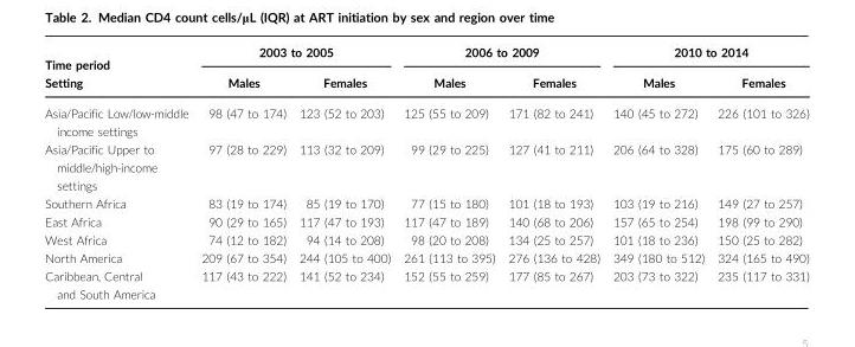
<table><thead><tr><td rowspan="2">Time period Setting</td><td colspan="2">2003 to 2005</td><td colspan="2">2006 to 2009</td><td colspan="2">2010 to 2014</td></tr><tr><td>Males</td><td>Females</td><td>Males</td><td>Females</td><td>Males</td><td>Females</td></tr></thead><tbody><tr><td>Asia/Pacific Low/low-middle income settings</td><td>98 (47 to 174)</td><td>123 (52 to 203)</td><td>125 (55 to 209)</td><td>171 (82 to 241)</td><td>140 (45 to 272)</td><td>226 (101 to 326)</td></tr><tr><td>Asia/Pacific Upper to middle/high-income settings</td><td>97 (28 to 229)</td><td>113 (32 to 209)</td><td>99 (29 to 225)</td><td>127 (41 to 211)</td><td>206 (64 to 328)</td><td>175 (60 to 289)</td></tr><tr><td>Southern Africa</td><td>83 (19 to 174)</td><td>85 (19 to 170)</td><td>77 (15 to 180)</td><td>101 (18 to 193)</td><td>103 (19 to 216)</td><td>149 (27 to 257)</td></tr><tr><td>East Africa</td><td>90 (29 to 165)</td><td>117 (47 to 193)</td><td>117 (47 to 189)</td><td>140 (68 to 206)</td><td>157 (65 to 254)</td><td>198 (99 to 290)</td></tr><tr><td>West Africa</td><td>74 (12 to 182)</td><td>94 (14 to 208)</td><td>98 (20 to 208)</td><td>134 (25 to 257)</td><td>101 (18 to 236)</td><td>150 (25 to 282)</td></tr><tr><td>North America</td><td>209 (67 to 354)</td><td>244 (105 to 400)</td><td>261 (113 to 395)</td><td>276 (136 to 428)</td><td>349 (180 to 512)</td><td>324 (165 to 490)</td></tr><tr><td>Caribbean, Central and South America</td><td>117 (43 to 222)</td><td>141 (52 to 234)</td><td>152 (55 to 259)</td><td>177 (85 to 267)</td><td>203 (73 to 322)</td><td>235 (117 to 331)</td></tr></tbody></table>